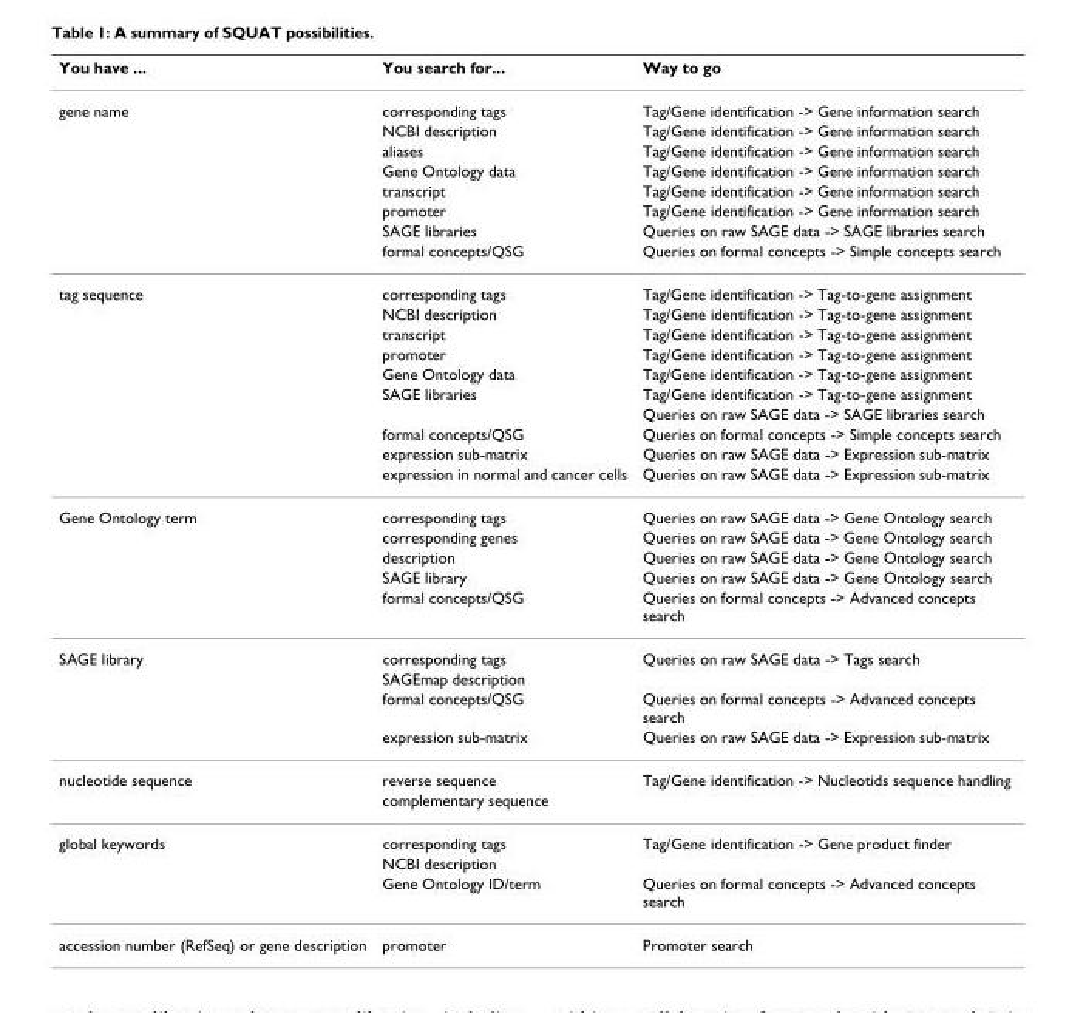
<table><thead><tr><td>You have ...</td><td>You search for...</td><td>Way to go</td></tr></thead><tbody><tr><td rowspan="8">gene name</td><td>corresponding tags</td><td>Tag/Gene identification -&gt; Gene information search</td></tr><tr><td>NCBI description</td><td>Tag/Gene identification -&gt; Gene information search</td></tr><tr><td>aliases</td><td>Tag/Gene identification -&gt; Gene information search</td></tr><tr><td>Gene Ontology data</td><td>Tag/Gene identification -&gt; Gene information search</td></tr><tr><td>transcript</td><td>Tag/Gene identification -&gt; Gene information search</td></tr><tr><td>promoter</td><td>Tag/Gene identification -&gt; Gene information search</td></tr><tr><td>SAGE libraries</td><td>Queries on raw SAGE data -&gt; SAGE libraries search</td></tr><tr><td>formal concepts/QSG</td><td>Queries on formal concepts -&gt; Simple concepts search</td></tr><tr><td rowspan="10">tag sequence</td><td>corresponding tags</td><td>Tag/Gene identification -&gt; Tag-to-gene assignment</td></tr><tr><td>NCBI description</td><td>Tag/Gene identification -&gt; Tag-to-gene assignment</td></tr><tr><td>transcript</td><td>Tag/Gene identification -&gt; Tag-to-gene assignment</td></tr><tr><td>promoter</td><td>Tag/Gene identification -&gt; Tag-to-gene assignment</td></tr><tr><td>Gene Ontology data</td><td>Tag/Gene identification -&gt; Tag-to-gene assignment</td></tr><tr><td>SAGE libraries</td><td>Tag/Gene identification -&gt; Tag-to-gene assignment</td></tr><tr><td></td><td>Queries on raw SAGE data -&gt; SAGE libraries search</td></tr><tr><td>formal concepts/QSG</td><td>Queries on formal concepts -&gt; Simple concepts search</td></tr><tr><td>expression sub-matrix</td><td>Queries on raw SAGE data -&gt; Expression sub-matrix</td></tr><tr><td>expression in normal and cancer cells</td><td>Queries on raw SAGE data -&gt; Expression sub-matrix</td></tr><tr><td rowspan="5">Gene Ontology term</td><td>corresponding tags</td><td>Queries on raw SAGE data -&gt; Gene Ontology search</td></tr><tr><td>corresponding genes</td><td>Queries on raw SAGE data -&gt; Gene Ontology search</td></tr><tr><td>description</td><td>Queries on raw SAGE data -&gt; Gene Ontology search</td></tr><tr><td>SAGE library</td><td>Queries on raw SAGE data -&gt; Gene Ontology search</td></tr><tr><td>formal concepts/QSG</td><td>Queries on formal concepts -&gt; Advanced concepts search</td></tr><tr><td rowspan="4">SAGE library</td><td>corresponding tags</td><td>Queries on raw SAGE data -&gt; Tags search</td></tr><tr><td>SAGEmap description</td><td></td></tr><tr><td>formal concepts/QSG</td><td>Queries on formal concepts -&gt; Advanced concepts search</td></tr><tr><td>expression sub-matrix</td><td>Queries on raw SAGE data -&gt; Expression sub-matrix</td></tr><tr><td rowspan="2">nucleotide sequence</td><td>reverse sequence</td><td>Tag/Gene identification -&gt; Nucleotids sequence handling</td></tr><tr><td>complementary sequence</td><td></td></tr><tr><td rowspan="3">global keywords</td><td>corresponding tags</td><td>Tag/Gene identification -&gt; Gene product finder</td></tr><tr><td>NCBI description</td><td></td></tr><tr><td>Gene Ontology ID/term</td><td>Queries on formal concepts -&gt; Advanced concepts search</td></tr><tr><td>accession number (RefSeq) or gene description</td><td>promoter</td><td>Promoter search</td></tr></tbody></table>